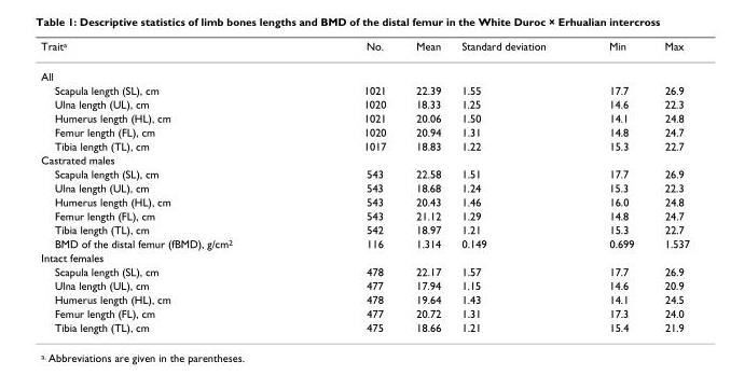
<table><thead><tr><td>Trait<sup>a</sup></td><td>No.</td><td>Mean</td><td>Standard deviation</td><td>Min</td><td>Max</td></tr></thead><tbody><tr><td colspan="6">All</td></tr><tr><td>Scapula length (SL), cm</td><td>1021</td><td>22.39</td><td>1.55</td><td>17.7</td><td>26.9</td></tr><tr><td>Ulna length (UL), cm</td><td>1020</td><td>18.33</td><td>1.25</td><td>14.6</td><td>22.3</td></tr><tr><td>Humerus length (HL), cm</td><td>1021</td><td>20.06</td><td>1.50</td><td>14.1</td><td>24.8</td></tr><tr><td>Femur length (FL), cm</td><td>1020</td><td>20.94</td><td>1.31</td><td>14.8</td><td>24.7</td></tr><tr><td>Tibia length (TL), cm</td><td>1017</td><td>18.83</td><td>1.22</td><td>15.3</td><td>22.7</td></tr><tr><td colspan="6">Castrated males</td></tr><tr><td>Scapula length (SL), cm</td><td>543</td><td>22.58</td><td>1.51</td><td>17.7</td><td>26.9</td></tr><tr><td>Ulna length (UL), cm</td><td>543</td><td>18.68</td><td>1.24</td><td>15.3</td><td>22.3</td></tr><tr><td>Humerus length (HL), cm</td><td>543</td><td>20.43</td><td>1.46</td><td>16.0</td><td>24.8</td></tr><tr><td>Femur length (FL), cm</td><td>543</td><td>21.12</td><td>1.29</td><td>14.8</td><td>24.7</td></tr><tr><td>Tibia length (TL), cm</td><td>542</td><td>18.97</td><td>1.21</td><td>15.3</td><td>22.7</td></tr><tr><td>BMD of the distal femur (fBMD), g/cm<sup>2</sup></td><td>116</td><td>1.314</td><td>0.149</td><td>0.699</td><td>1.537</td></tr><tr><td colspan="6">Intact females</td></tr><tr><td>Scapula length (SL), cm</td><td>478</td><td>22.17</td><td>1.57</td><td>17.7</td><td>26.9</td></tr><tr><td>Ulna length (UL), cm</td><td>477</td><td>17.94</td><td>1.15</td><td>14.6</td><td>20.9</td></tr><tr><td>Humerus length (HL), cm</td><td>478</td><td>19.64</td><td>1.43</td><td>14.1</td><td>24.5</td></tr><tr><td>Femur length (FL), cm</td><td>477</td><td>20.72</td><td>1.31</td><td>17.3</td><td>24.0</td></tr><tr><td>Tibia length (TL), cm</td><td>475</td><td>18.66</td><td>1.21</td><td>15.4</td><td>21.9</td></tr></tbody></table>